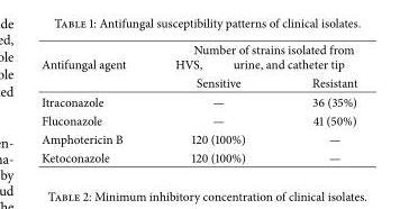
<table><thead><tr><td rowspan="2">Antifungal agent</td><td colspan="2">Number of strains isolated from HVS, urine, and catheter tip</td></tr><tr><td>Sensitive</td><td>Resistant</td></tr></thead><tbody><tr><td>Itraconazole</td><td>—</td><td>36 (35%)</td></tr><tr><td>Fluconazole</td><td>—</td><td>41 (50%)</td></tr><tr><td>Amphotericin B</td><td>120 (100%)</td><td>—</td></tr><tr><td>Ketoconazole</td><td>120 (100%)</td><td>—</td></tr></tbody></table>